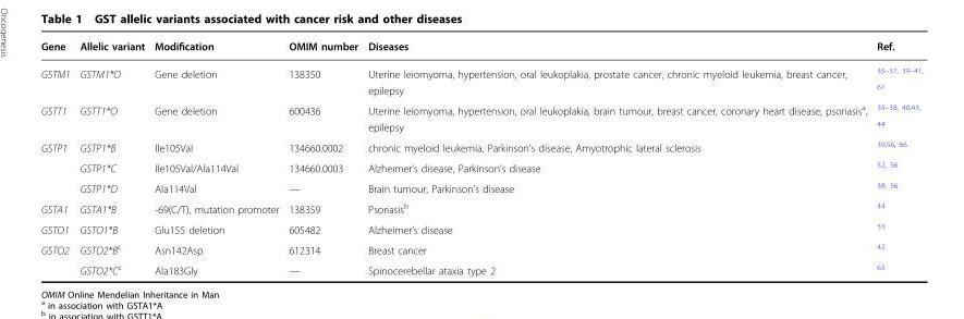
<table><thead><tr><td>Gene</td><td>Allelic variant</td><td>Modification</td><td>OMIM number</td><td>Diseases</td><td>Ref.</td></tr></thead><tbody><tr><td>GSTM1</td><td>GSTM1*O</td><td>Gene deletion</td><td>138350</td><td>Uterine leiomyoma, hypertension, oral leukoplakia, prostate cancer, chronic myeloid leukemia, breast cancer, epilepsy</td><td><sup>35–37, 39–41, 61</sup></td></tr><tr><td>GSTT1</td><td>GSTT1*O</td><td>Gene deletion</td><td>600436</td><td>Uterine leiomyoma, hypertension, oral leukoplakia, brain tumour, breast cancer, coronary heart disease, psoriasis<sup>a</sup>, epilepsy</td><td><sup>35–38, 40,43, 44</sup></td></tr><tr><td rowspan="3">GSTP1</td><td>GSTP1*B</td><td>Ile105Val</td><td>134660.0002</td><td>chronic myeloid leukemia, Parkinson’s disease, Amyotrophic lateral sclerosis</td><td><sup>39,56, 66</sup></td></tr><tr><td>GSTP1*C</td><td>Ile105Val/Ala114Val</td><td>134660.0003</td><td>Alzheimer’s disease, Parkinson’s disease</td><td><sup>52, 56</sup></td></tr><tr><td>GSTP1*D</td><td>Ala114Val</td><td>—</td><td>Brain tumour, Parkinson’s disease</td><td><sup>38, 56</sup></td></tr><tr><td>GSTA1</td><td>GSTA1*B</td><td>-69(C/T), mutation promoter</td><td>138359</td><td>Psoriasis<sup>b</sup></td><td><sup>44</sup></td></tr><tr><td>GSTO1</td><td>GSTO1*B</td><td>Glu155 deletion</td><td>605482</td><td>Alzheimer’s disease</td><td><sup>53</sup></td></tr><tr><td rowspan="2">GSTO2</td><td>GSTO2*B<sup>c</sup></td><td>Asn142Asp</td><td>612314</td><td>Breast cancer</td><td><sup>42</sup></td></tr><tr><td>GSTO2*C<sup>c</sup></td><td>Ala183Gly</td><td>—</td><td>Spinocerebellar ataxia type 2</td><td><sup>65</sup></td></tr></tbody></table>